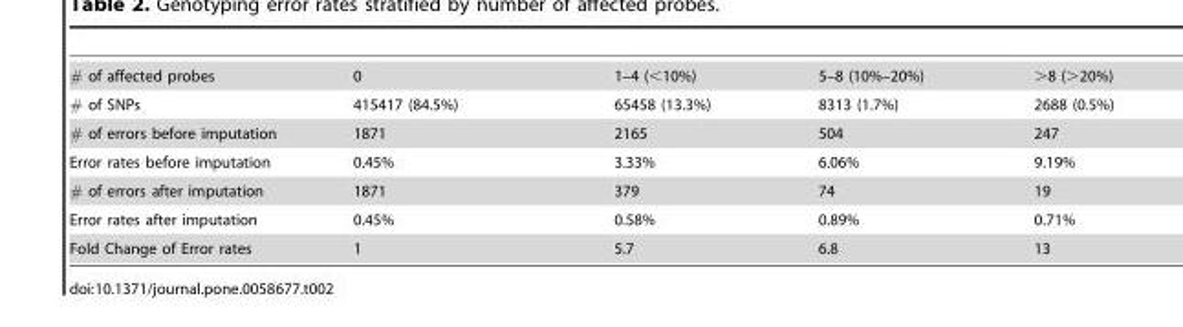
<table><tbody><tr><td># of affected probes</td><td>0</td><td>1–4 (&lt;10%)</td><td>5–8 (10%–20%)</td><td>&gt;8 (&gt;20%)</td></tr><tr><td># of SNPs</td><td>415417 (84.5%)</td><td>65458 (13.3%)</td><td>8313 (1.7%)</td><td>2688 (0.5%)</td></tr><tr><td># of errors before imputation</td><td>1871</td><td>2165</td><td>504</td><td>247</td></tr><tr><td>Error rates before imputation</td><td>0.45%</td><td>3.33%</td><td>6.06%</td><td>9.19%</td></tr><tr><td># of errors after imputation</td><td>1871</td><td>379</td><td>74</td><td>19</td></tr><tr><td>Error rates after imputation</td><td>0.45%</td><td>0.58%</td><td>0.89%</td><td>0.71%</td></tr><tr><td>Fold Change of Error rates</td><td>1</td><td>5.7</td><td>6.8</td><td>13</td></tr></tbody></table>